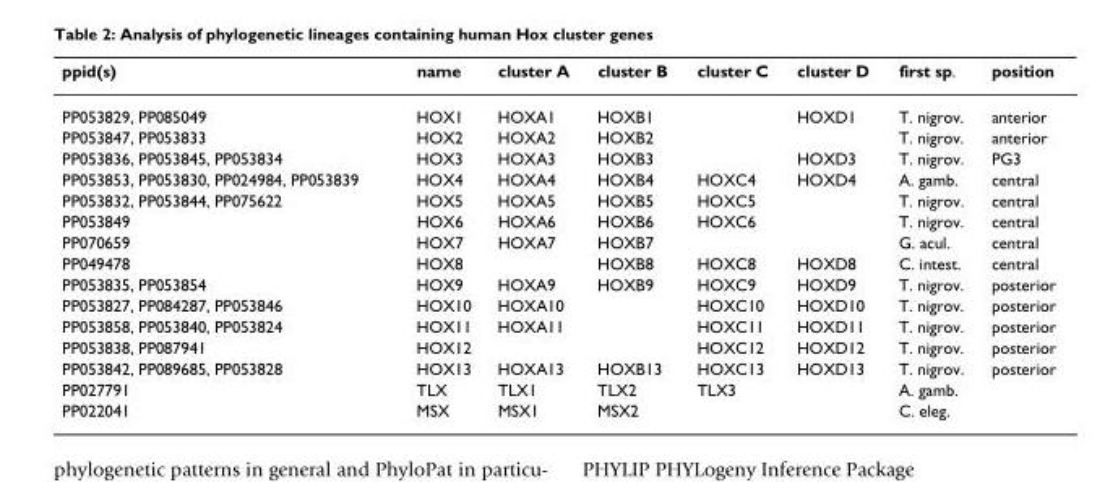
<table><thead><tr><td>ppid(s)</td><td>name</td><td>cluster A</td><td>cluster B</td><td>cluster C</td><td>cluster D</td><td>first sp.</td><td>position</td></tr></thead><tbody><tr><td>PP053829, PP085049</td><td>HOX1</td><td>HOXA1</td><td>HOXB1</td><td></td><td>HOXD1</td><td>T. nigrov.</td><td>anterior</td></tr><tr><td>PP053847, PP053833</td><td>HOX2</td><td>HOXA2</td><td>HOXB2</td><td></td><td></td><td>T. nigrov.</td><td>anterior</td></tr><tr><td>PP053836, PP053845, PP053834</td><td>HOX3</td><td>HOXA3</td><td>HOXB3</td><td></td><td>HOXD3</td><td>T. nigrov.</td><td>PG3</td></tr><tr><td>PP053853, PP053830, PP024984, PP053839</td><td>HOX4</td><td>HOXA4</td><td>HOXB4</td><td>HOXC4</td><td>HOXD4</td><td>A. gamb.</td><td>central</td></tr><tr><td>PP053832, PP053844, PP075622</td><td>HOX5</td><td>HOXA5</td><td>HOXB5</td><td>HOXC5</td><td></td><td>T. nigrov.</td><td>central</td></tr><tr><td>PP053849</td><td>HOX6</td><td>HOXA6</td><td>HOXB6</td><td>HOXC6</td><td></td><td>T. nigrov.</td><td>central</td></tr><tr><td>PP070659</td><td>HOX7</td><td>HOXA7</td><td>HOXB7</td><td></td><td></td><td>G. acul.</td><td>central</td></tr><tr><td>PP049478</td><td>HOX8</td><td></td><td>HOXB8</td><td>HOXC8</td><td>HOXD8</td><td>C. intest.</td><td>central</td></tr><tr><td>PP053835, PP053854</td><td>HOX9</td><td>HOXA9</td><td>HOXB9</td><td>HOXC9</td><td>HOXD9</td><td>T. nigrov.</td><td>posterior</td></tr><tr><td>PP053827, PP084287, PP053846</td><td>HOX10</td><td>HOXA10</td><td></td><td>HOXC10</td><td>HOXD10</td><td>T. nigrov.</td><td>posterior</td></tr><tr><td>PP053858, PP053840, PP053824</td><td>HOX11</td><td>HOXA11</td><td></td><td>HOXC11</td><td>HOXD11</td><td>T. nigrov.</td><td>posterior</td></tr><tr><td>PP053838, PP087941</td><td>HOX12</td><td></td><td></td><td>HOXC12</td><td>HOXD12</td><td>T. nigrov.</td><td>posterior</td></tr><tr><td>PP053842, PP089685, PP053828</td><td>HOX13</td><td>HOXA13</td><td>HOXB13</td><td>HOXC13</td><td>HOXD13</td><td>T. nigrov.</td><td>posterior</td></tr><tr><td>PP027791</td><td>TLX</td><td>TLX1</td><td>TLX2</td><td>TLX3</td><td></td><td>A. gamb.</td><td></td></tr><tr><td>PP022041</td><td>MSX</td><td>MSX1</td><td>MSX2</td><td></td><td></td><td>C. eleg.</td><td></td></tr></tbody></table>